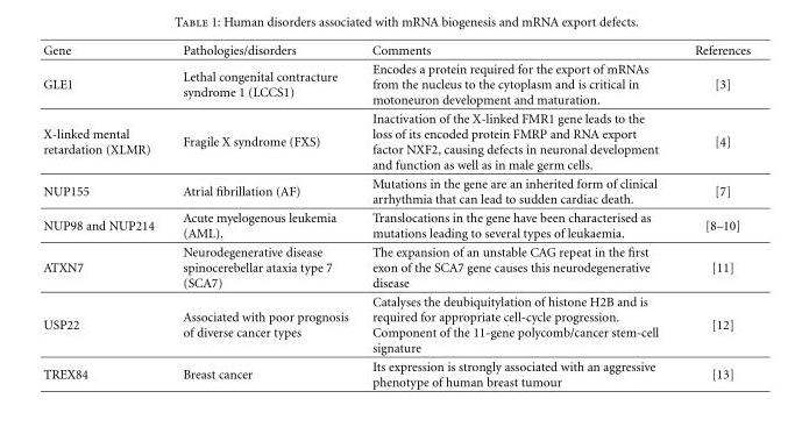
<table><thead><tr><td>Gene</td><td>Pathologies/disorders</td><td>Comments</td><td>References</td></tr></thead><tbody><tr><td>GLE1</td><td>Lethal congenital contracture syndrome 1 (LCCS1)</td><td>Encodes a protein required for the export of mRNAs from the nucleus to the cytoplasm and is critical in motoneuron development and maturation.</td><td>[3]</td></tr><tr><td>X-linked mental retardation (XLMR)</td><td>Fragile X syndrome (FXS)</td><td>Inactivation of the X-linked FMR1 gene leads to the loss of its encoded protein FMRP and RNA export factor NXF2, causing defects in neuronal development and function as well as in male germ cells.</td><td>[4]</td></tr><tr><td>NUP155</td><td>Atrial fibrillation (AF)</td><td>Mutations in the gene are an inherited form of clinical arrhythmia that can lead to sudden cardiac death.</td><td>[7]</td></tr><tr><td>NUP98 and NUP214</td><td>Acute myelogenous leukemia (AML).</td><td>Translocations in the gene have been characterised as mutations leading to several types of leukaemia.</td><td>[8–10]</td></tr><tr><td>ATXN7</td><td>Neurodegenerative disease spinocerebellar ataxia type 7 (SCA7)</td><td>The expansion of an unstable CAG repeat in the first exon of the SCA7 gene causes this neurodegenerative disease</td><td>[11]</td></tr><tr><td>USP22</td><td>Associated with poor prognosis of diverse cancer types</td><td>Catalyses the deubiquitylation of histone H2B and is required for appropriate cell-cycle progression. Component of the 11-gene polycomb/cancer stem-cell signature</td><td>[12]</td></tr><tr><td>TREX84</td><td>Breast cancer</td><td>Its expression is strongly associated with an aggressive phenotype of human breast tumour</td><td>[13]</td></tr></tbody></table>